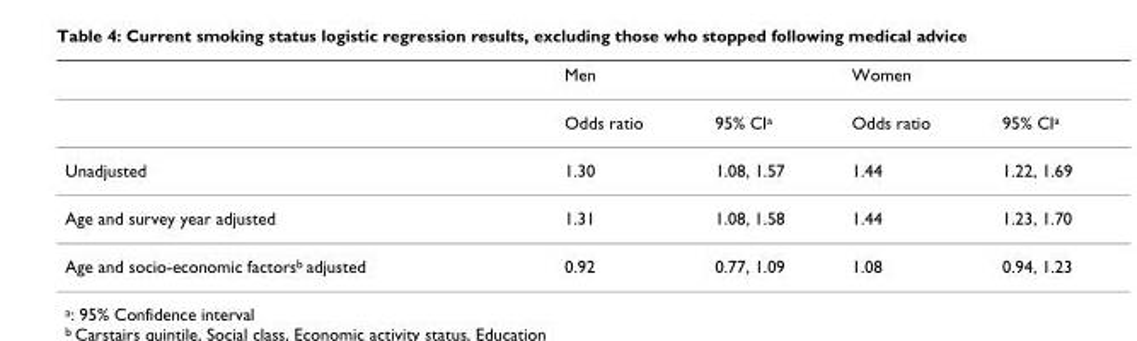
<table><thead><tr><td></td><td>Men</td><td></td><td>Women</td><td></td></tr></thead><tbody><tr><td></td><td>Odds ratio</td><td>95% CIa</td><td>Odds ratio</td><td>95% CIa</td></tr><tr><td>Unadjusted</td><td>1.30</td><td>1.08, 1.57</td><td>1.44</td><td>1.22, 1.69</td></tr><tr><td>Age and survey year adjusted</td><td>1.31</td><td>1.08, 1.58</td><td>1.44</td><td>1.23, 1.70</td></tr><tr><td>Age and socio-economic factorsb adjusted</td><td>0.92</td><td>0.77, 1.09</td><td>1.08</td><td>0.94, 1.23</td></tr></tbody></table>